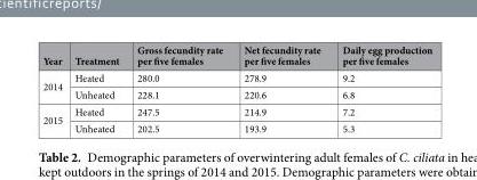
<table><thead><tr><td>Year</td><td>Treatment</td><td>Gross fecundity rate per five females</td><td>Net fecundity rate per five females</td><td>Daily egg production per five females</td></tr></thead><tbody><tr><td rowspan="2">2014</td><td>Heated</td><td>280.0</td><td>278.9</td><td>9.2</td></tr><tr><td>Unheated</td><td>228.1</td><td>220.6</td><td>6.8</td></tr><tr><td rowspan="2">2015</td><td>Heated</td><td>247.5</td><td>214.9</td><td>7.2</td></tr><tr><td>Unheated</td><td>202.5</td><td>193.9</td><td>5.3</td></tr></tbody></table>